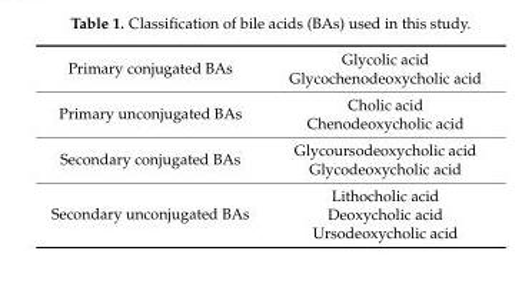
<table><tbody><tr><td rowspan="2">Primary conjugated BAs</td><td>Glycolic acid</td></tr><tr><td>Glycochenodeoxycholic acid</td></tr><tr><td rowspan="2">Primary unconjugated BAs</td><td>Cholic acid</td></tr><tr><td>Chenodeoxycholic acid</td></tr><tr><td rowspan="2">Secondary conjugated BAs</td><td>Glycoursodeoxycholic acid</td></tr><tr><td>Glycodeoxycholic acid</td></tr><tr><td rowspan="3">Secondary unconjugated BAs</td><td>Lithocholic acid</td></tr><tr><td>Deoxycholic acid</td></tr><tr><td>Ursodeoxycholic acid</td></tr></tbody></table>